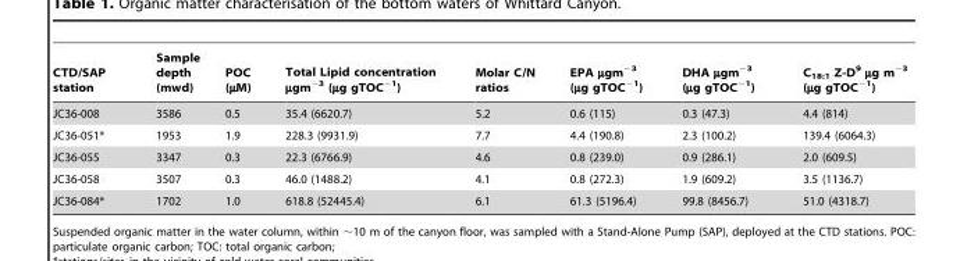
<table><thead><tr><td>CTD/SAP station</td><td>Sample depth (mwd)</td><td>POC (µM)</td><td>Total Lipid concentration µgm<sup>−3</sup> (µg gTOC<sup>−1</sup>)</td><td>Molar C/N ratios</td><td>EPA µgm<sup>−3</sup> (µg gTOC<sup>−1</sup>)</td><td>DHA µgm<sup>−3</sup> (µg gTOC<sup>−1</sup>)</td><td>C18:1 Z-D9 µg m−3 (µg gTOC−1)</td></tr></thead><tbody><tr><td>JC36-008</td><td>3586</td><td>0.5</td><td>35.4 (6620.7)</td><td>5.2</td><td>0.6 (115)</td><td>0.3 (47.3)</td><td>4.4 (814)</td></tr><tr><td>JC36-051*</td><td>1953</td><td>1.9</td><td>228.3 (9931.9)</td><td>7.7</td><td>4.4 (190.8)</td><td>2.3 (100.2)</td><td>139.4 (6064.3)</td></tr><tr><td>JC36-055</td><td>3347</td><td>0.3</td><td>22.3 (6766.9)</td><td>4.6</td><td>0.8 (239.0)</td><td>0.9 (286.1)</td><td>2.0 (609.5)</td></tr><tr><td>JC36-058</td><td>3507</td><td>0.3</td><td>46.0 (1488.2)</td><td>4.1</td><td>0.8 (272.3)</td><td>1.9 (609.2)</td><td>3.5 (1136.7)</td></tr><tr><td>JC36-084*</td><td>1702</td><td>1.0</td><td>618.8 (52445.4)</td><td>6.1</td><td>61.3 (5196.4)</td><td>99.8 (8456.7)</td><td>51.0 (4318.7)</td></tr></tbody></table>